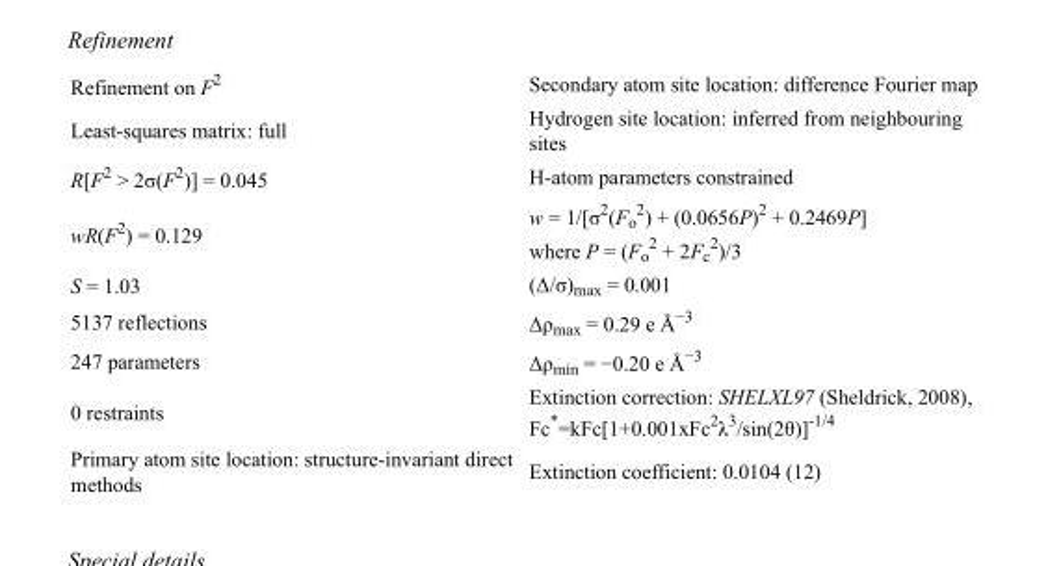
<table><tbody><tr><td>Refinement on F<sup>2</sup></td><td>Secondary atom site location: difference Fourier map</td></tr><tr><td>Least-squares matrix: full</td><td>Hydrogen site location: inferred from neighbouring sites</td></tr><tr><td>R[F<sup>2</sup> &gt; 2σ(F<sup>2</sup>)] = 0.045</td><td>H-atom parameters constrained</td></tr><tr><td>wR(F<sup>2</sup>) = 0.129</td><td>w = 1/[σ<sup>2</sup>(F<sub>o</sub> <sup>2</sup>) + (0.0656P)<sup>2</sup> + 0.2469P] where P = (F<sub>o</sub> <sup>2</sup> + 2F<sub>c</sub> <sup>2</sup>)/3</td></tr><tr><td>S = 1.03</td><td>(Δ/σ)<sub>max</sub> = 0.001</td></tr><tr><td>5137 reflections</td><td>Δρ<sub>max</sub> = 0.29 e Å<sup>−3</sup></td></tr><tr><td>247 parameters</td><td>Δρ<sub>min</sub> = −0.20 e Å<sup>−3</sup></td></tr><tr><td>0 restraints</td><td>Extinction correction: SHELXL97 (Sheldrick, 2008), Fc*=kFc[1+0.001xFc<sup>2</sup>λ<sup>3</sup>/sin(2θ)]<sup>-1/4</sup></td></tr><tr><td>Primary atom site location: structure-invariant direct methods</td><td>Extinction coefficient: 0.0104 (12)</td></tr></tbody></table>